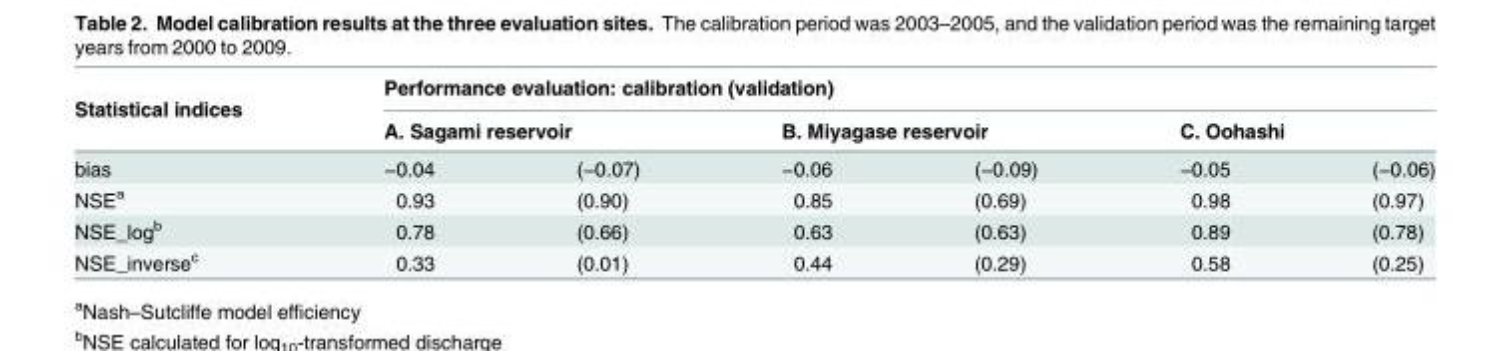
<table><thead><tr><td rowspan="3">Statistical indices bias</td><td colspan="6">Performance evaluation: calibration (validation)</td></tr><tr><td colspan="2">A. Sagami reservoir</td><td colspan="2">B. Miyagase reservoir</td><td colspan="2">C. Oohashi</td></tr><tr><td>−0.04</td><td>(−0.07)</td><td>−0.06</td><td>(−0.09)</td><td>−0.05</td><td>(−0.06)</td></tr></thead><tbody><tr><td>NSE<sup>a</sup></td><td>0.93</td><td>(0.90)</td><td>0.85</td><td>(0.69)</td><td>0.98</td><td>(0.97)</td></tr><tr><td>NSE_log<sup>b</sup></td><td>0.78</td><td>(0.66)</td><td>0.63</td><td>(0.63)</td><td>0.89</td><td>(0.78)</td></tr><tr><td>NSE_inverse<sup>c</sup></td><td>0.33</td><td>(0.01)</td><td>0.44</td><td>(0.29)</td><td>0.58</td><td>(0.25)</td></tr></tbody></table>